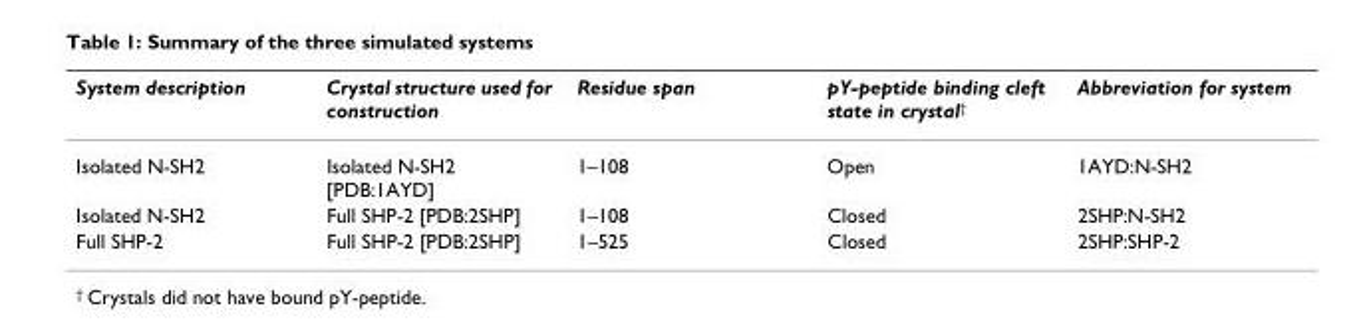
<table><thead><tr><td>System description</td><td>Crystal structure used for construction</td><td>Residue span</td><td>pY-peptide binding cleft state in crystal†</td><td>Abbreviation for system</td></tr></thead><tbody><tr><td>Isolated N-SH2</td><td>Isolated N-SH2 [PDB:1AYD]</td><td>1–108</td><td>Open</td><td>1AYD:N-SH2</td></tr><tr><td>Isolated N-SH2</td><td>Full SHP-2 [PDB:2SHP]</td><td>1–108</td><td>Closed</td><td>2SHP:N-SH2</td></tr><tr><td>Full SHP-2</td><td>Full SHP-2 [PDB:2SHP]</td><td>1–525</td><td>Closed</td><td>2SHP:SHP-2</td></tr></tbody></table>